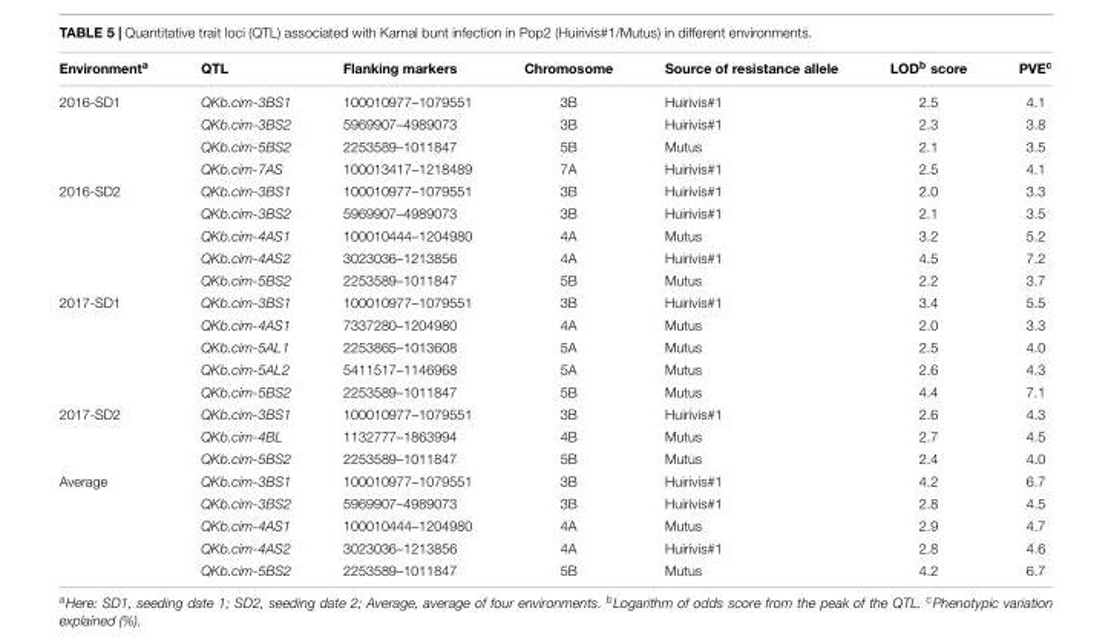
<table><thead><tr><td>Environment<sup>a</sup></td><td>QTL</td><td>Flanking markers</td><td>Chromosome</td><td>Source of resistance allele</td><td>LOD<sup>b</sup> score</td><td>PVE<sup>c</sup></td></tr></thead><tbody><tr><td rowspan="4">2016-SD1</td><td>QKb.cim-3BS1</td><td>100010977–1079551</td><td>3B</td><td>Huirivis#1</td><td>2.5</td><td>4.1</td></tr><tr><td>QKb.cim-3BS2</td><td>5969907–4989073</td><td>3B</td><td>Huirivis#1</td><td>2.3</td><td>3.8</td></tr><tr><td>QKb.cim-5BS2</td><td>2253589–1011847</td><td>5B</td><td>Mutus</td><td>2.1</td><td>3.5</td></tr><tr><td>QKb.cim-7AS</td><td>100013417–1218489</td><td>7A</td><td>Huirivis#1</td><td>2.5</td><td>4.1</td></tr><tr><td rowspan="5">2016-SD2</td><td>QKb.cim-3BS1</td><td>100010977–1079551</td><td>3B</td><td>Huirivis#1</td><td>2.0</td><td>3.3</td></tr><tr><td>QKb.cim-3BS2</td><td>5969907–4989073</td><td>3B</td><td>Huirivis#1</td><td>2.1</td><td>3.5</td></tr><tr><td>QKb.cim-4AS1</td><td>100010444–1204980</td><td>4A</td><td>Mutus</td><td>3.2</td><td>5.2</td></tr><tr><td>QKb.cim-4AS2</td><td>3023036–1213856</td><td>4A</td><td>Huirivis#1</td><td>4.5</td><td>7.2</td></tr><tr><td>QKb.cim-5BS2</td><td>2253589–1011847</td><td>5B</td><td>Mutus</td><td>2.2</td><td>3.7</td></tr><tr><td rowspan="5">2017-SD1</td><td>QKb.cim-3BS1</td><td>100010977–1079551</td><td>3B</td><td>Huirivis#1</td><td>3.4</td><td>5.5</td></tr><tr><td>QKb.cim-4AS1</td><td>7337280–1204980</td><td>4A</td><td>Mutus</td><td>2.0</td><td>3.3</td></tr><tr><td>QKb.cim-5AL1</td><td>2253865–1013608</td><td>5A</td><td>Mutus</td><td>2.5</td><td>4.0</td></tr><tr><td>QKb.cim-5AL2</td><td>5411517–1146968</td><td>5A</td><td>Mutus</td><td>2.6</td><td>4.3</td></tr><tr><td>QKb.cim-5BS2</td><td>2253589–1011847</td><td>5B</td><td>Mutus</td><td>4.4</td><td>7.1</td></tr><tr><td rowspan="3">2017-SD2</td><td>QKb.cim-3BS1</td><td>100010977–1079551</td><td>3B</td><td>Huirivis#1</td><td>2.6</td><td>4.3</td></tr><tr><td>QKb.cim-4BL</td><td>1132777–1863994</td><td>4B</td><td>Mutus</td><td>2.7</td><td>4.5</td></tr><tr><td>QKb.cim-5BS2</td><td>2253589–1011847</td><td>5B</td><td>Mutus</td><td>2.4</td><td>4.0</td></tr><tr><td rowspan="5">Average</td><td>QKb.cim-3BS1</td><td>100010977–1079551</td><td>3B</td><td>Huirivis#1</td><td>4.2</td><td>6.7</td></tr><tr><td>QKb.cim-3BS2</td><td>5969907–4989073</td><td>3B</td><td>Huirivis#1</td><td>2.8</td><td>4.5</td></tr><tr><td>QKb.cim-4AS1</td><td>100010444–1204980</td><td>4A</td><td>Mutus</td><td>2.9</td><td>4.7</td></tr><tr><td>QKb.cim-4AS2</td><td>3023036–1213856</td><td>4A</td><td>Huirivis#1</td><td>2.8</td><td>4.6</td></tr><tr><td>QKb.cim-5BS2</td><td>2253589–1011847</td><td>5B</td><td>Mutus</td><td>4.2</td><td>6.7</td></tr></tbody></table>